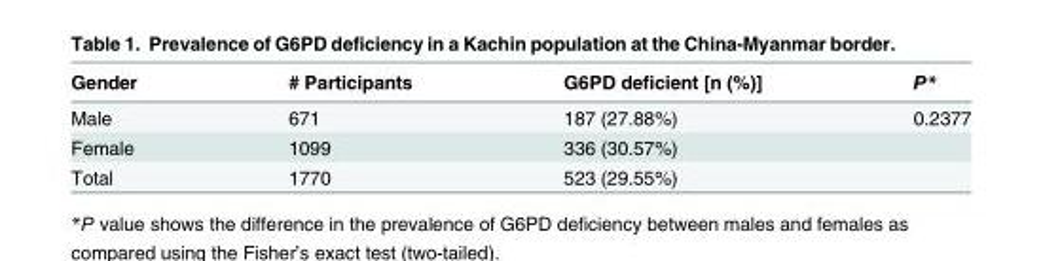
<table><thead><tr><td>Gender</td><td># Participants</td><td>G6PD deficient [n (%)]</td><td>P*</td></tr></thead><tbody><tr><td>Male</td><td>671</td><td>187 (27.88%)</td><td>0.2377</td></tr><tr><td>Female</td><td>1099</td><td>336 (30.57%)</td><td></td></tr><tr><td>Total</td><td>1770</td><td>523 (29.55%)</td><td></td></tr></tbody></table>